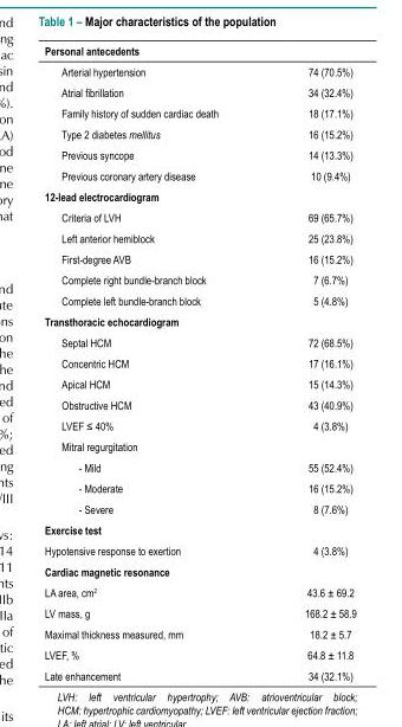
<table><thead><tr><td>Personal antecedents</td><td></td></tr></thead><tbody><tr><td>Arterial hypertension</td><td>74 (70.5%)</td></tr><tr><td>Atrial fibrillation</td><td>34 (32.4%)</td></tr><tr><td>Family history of sudden cardiac death</td><td>18 (17.1%)</td></tr><tr><td>Type 2 diabetes mellitus</td><td>16 (15.2%)</td></tr><tr><td>Previous syncope</td><td>14 (13.3%)</td></tr><tr><td>Previous coronary artery disease</td><td>10 (9.4%)</td></tr><tr><td colspan="2">12-lead electrocardiogram</td></tr><tr><td>Criteria of LVH</td><td>69 (65.7%)</td></tr><tr><td>Left anterior hemiblock</td><td>25 (23.8%)</td></tr><tr><td>First-degree AVB</td><td>16 (15.2%)</td></tr><tr><td>Complete right bundle-branch block</td><td>7 (6.7%)</td></tr><tr><td>Complete left bundle-branch block</td><td>5 (4.8%)</td></tr><tr><td colspan="2">Transthoracic echocardiogram</td></tr><tr><td>Septal HCM</td><td>72 (68.5%)</td></tr><tr><td>Concentric HCM</td><td>17 (16.1%)</td></tr><tr><td>Apical HCM</td><td>15 (14.3%)</td></tr><tr><td>Obstructive HCM</td><td>43 (40.9%)</td></tr><tr><td>LVEF ≤ 40%</td><td>4 (3.8%)</td></tr><tr><td colspan="2">Mitral regurgitation</td></tr><tr><td>- Mild</td><td>55 (52.4%)</td></tr><tr><td>- Moderate</td><td>16 (15.2%)</td></tr><tr><td>- Severe</td><td>8 (7.6%)</td></tr><tr><td colspan="2">Exercise test</td></tr><tr><td>Hypotensive response to exertion</td><td>4 (3.8%)</td></tr><tr><td colspan="2">Cardiac magnetic resonance</td></tr><tr><td>LA area, cm<sup>2</sup></td><td>43.6 ± 69.2</td></tr><tr><td>LV mass, g</td><td>168.2 ± 58.9</td></tr><tr><td>Maximal thickness measured, mm</td><td>18.2 ± 5.7</td></tr><tr><td>LVEF, %</td><td>64.8 ± 11.8</td></tr><tr><td>Late enhancement</td><td>34 (32.1%)</td></tr></tbody></table>